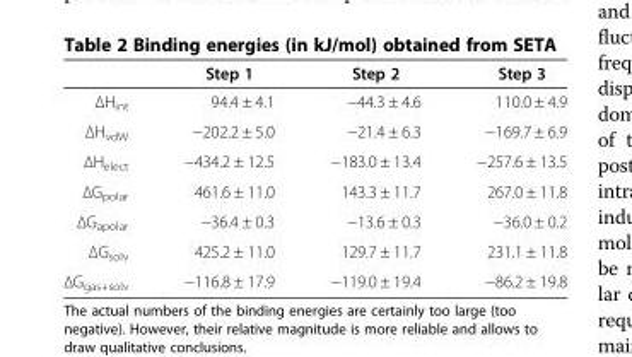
<table><thead><tr><td></td><td>Step 1</td><td>Step 2</td><td>Step 3</td></tr></thead><tbody><tr><td>ΔHint</td><td>94.4 ± 4.1</td><td>−44.3 ± 4.6</td><td>110.0 ± 4.9</td></tr><tr><td>ΔHvdW</td><td>−202.2 ± 5.0</td><td>−21.4 ± 6.3</td><td>−169.7 ± 6.9</td></tr><tr><td>ΔHelect</td><td>−434.2 ± 12.5</td><td>−183.0 ± 13.4</td><td>−257.6 ± 13.5</td></tr><tr><td>ΔGpolar</td><td>461.6 ± 11.0</td><td>143.3 ± 11.7</td><td>267.0 ± 11.8</td></tr><tr><td>ΔGapolar</td><td>−36.4 ± 0.3</td><td>−13.6 ± 0.3</td><td>−36.0 ± 0.2</td></tr><tr><td>ΔGsolv</td><td>425.2 ± 11.0</td><td>129.7 ± 11.7</td><td>231.1 ± 11.8</td></tr><tr><td>ΔGgas+solv</td><td>−116.8 ± 17.9</td><td>−119.0 ± 19.4</td><td>−86.2 ± 19.8</td></tr></tbody></table>